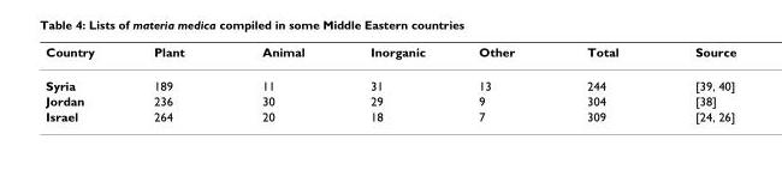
<table><thead><tr><td>Country</td><td>Plant</td><td>Animal</td><td>Inorganic</td><td>Other</td><td>Total</td><td>Source</td></tr></thead><tbody><tr><td>Syria</td><td>189</td><td>11</td><td>31</td><td>13</td><td>244</td><td>[39, 40]</td></tr><tr><td>Jordan</td><td>236</td><td>30</td><td>29</td><td>9</td><td>304</td><td>[38]</td></tr><tr><td>Israel</td><td>264</td><td>20</td><td>18</td><td>7</td><td>309</td><td>[24, 26]</td></tr></tbody></table>